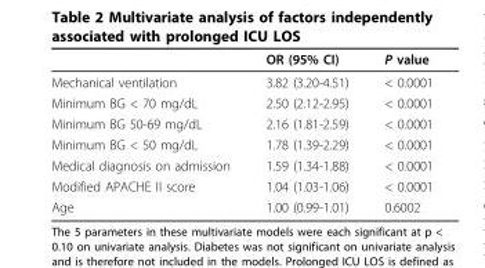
<table><thead><tr><td></td><td>OR (95% CI)</td><td>P value</td></tr></thead><tbody><tr><td>Mechanical ventilation</td><td>3.82 (3.20-4.51)</td><td>&lt; 0.0001</td></tr><tr><td>Minimum BG &lt; 70 mg/dL</td><td>2.50 (2.12-2.95)</td><td>&lt; 0.0001</td></tr><tr><td>Minimum BG 50-69 mg/dL</td><td>2.16 (1.81-2.59)</td><td>&lt; 0.0001</td></tr><tr><td>Minimum BG &lt; 50 mg/dL</td><td>1.78 (1.39-2.29)</td><td>&lt; 0.0001</td></tr><tr><td>Medical diagnosis on admission</td><td>1.59 (1.34-1.88)</td><td>&lt; 0.0001</td></tr><tr><td>Modified APACHE II score</td><td>1.04 (1.03-1.06)</td><td>&lt; 0.0001</td></tr><tr><td>Age</td><td>1.00 (0.99-1.01)</td><td>0.6002</td></tr></tbody></table>